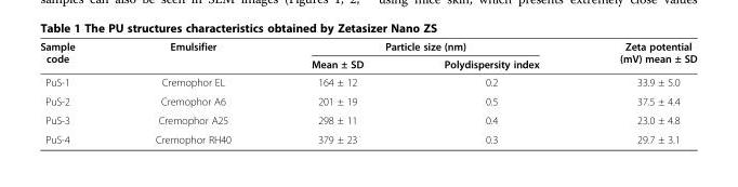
<table><thead><tr><td rowspan="2">Sample code</td><td rowspan="2">Emulsifier</td><td colspan="2">Particle size (nm)</td><td rowspan="2">Zeta potential (mV) mean ± SD</td></tr><tr><td>Mean ± SD</td><td>Polydispersity index</td></tr></thead><tbody><tr><td>PuS-1</td><td>Cremophor EL</td><td>164 ± 12</td><td>0.2</td><td>33.9 ± 5.0</td></tr><tr><td>PuS-2</td><td>Cremophor A6</td><td>201 ± 19</td><td>0.5</td><td>37.5 ± 4.4</td></tr><tr><td>PuS-3</td><td>Cremophor A25</td><td>298 ± 11</td><td>0.4</td><td>23.0 ± 4.8</td></tr><tr><td>PuS-4</td><td>Cremophor RH40</td><td>379 ± 23</td><td>0.3</td><td>29.7 ± 3.1</td></tr></tbody></table>